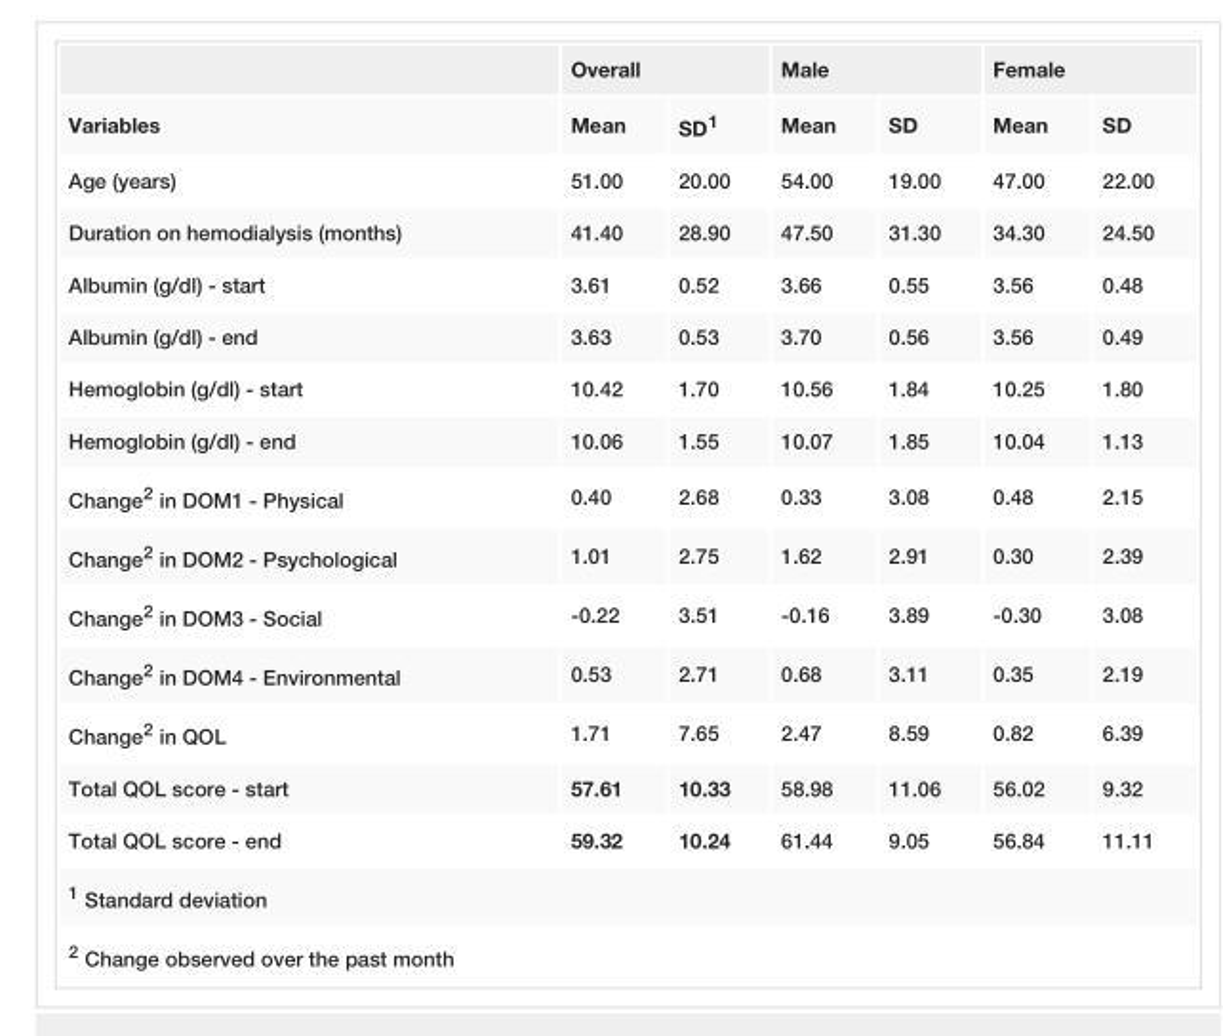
<table><thead><tr><td rowspan="2">Variables</td><td colspan="2">Overall</td><td colspan="2">Male</td><td colspan="2">Female</td></tr><tr><td>Mean</td><td>SD<sup>1</sup></td><td>Mean</td><td>SD</td><td>Mean</td><td>SD</td></tr></thead><tbody><tr><td>Age (years)</td><td>51.00</td><td>20.00</td><td>54.00</td><td>19.00</td><td>47.00</td><td>22.00</td></tr><tr><td>Duration on hemodialysis (months)</td><td>41.40</td><td>28.90</td><td>47.50</td><td>31.30</td><td>34.30</td><td>24.50</td></tr><tr><td>Albumin (g/dl) - start</td><td>3.61</td><td>0.52</td><td>3.66</td><td>0.55</td><td>3.56</td><td>0.48</td></tr><tr><td>Albumin (g/dl) - end</td><td>3.63</td><td>0.53</td><td>3.70</td><td>0.56</td><td>3.56</td><td>0.49</td></tr><tr><td>Hemoglobin (g/dl) - start</td><td>10.42</td><td>1.70</td><td>10.56</td><td>1.84</td><td>10.25</td><td>1.80</td></tr><tr><td>Hemoglobin (g/dl) - end</td><td>10.06</td><td>1.55</td><td>10.07</td><td>1.85</td><td>10.04</td><td>1.13</td></tr><tr><td>Change<sup>2</sup> in DOM1 - Physical</td><td>0.40</td><td>2.68</td><td>0.33</td><td>3.08</td><td>0.48</td><td>2.15</td></tr><tr><td>Change<sup>2</sup> in DOM2 - Psychological</td><td>1.01</td><td>2.75</td><td>1.62</td><td>2.91</td><td>0.30</td><td>2.39</td></tr><tr><td>Change<sup>2</sup> in DOM3 - Social</td><td>-0.22</td><td>3.51</td><td>-0.16</td><td>3.89</td><td>-0.30</td><td>3.08</td></tr><tr><td>Change<sup>2</sup> in DOM4 - Environmental</td><td>0.53</td><td>2.71</td><td>0.68</td><td>3.11</td><td>0.35</td><td>2.19</td></tr><tr><td>Change<sup>2</sup> in QOL</td><td>1.71</td><td>7.65</td><td>2.47</td><td>8.59</td><td>0.82</td><td>6.39</td></tr><tr><td>Total QOL score - start</td><td>57.61</td><td>10.33</td><td>58.98</td><td>11.06</td><td>56.02</td><td>9.32</td></tr><tr><td>Total QOL score - end</td><td>59.32</td><td>10.24</td><td>61.44</td><td>9.05</td><td>56.84</td><td>11.11</td></tr><tr><td colspan="7"><sup>1</sup> Standard deviation</td></tr><tr><td colspan="7"><sup>2</sup> Change observed over the past month</td></tr></tbody></table>